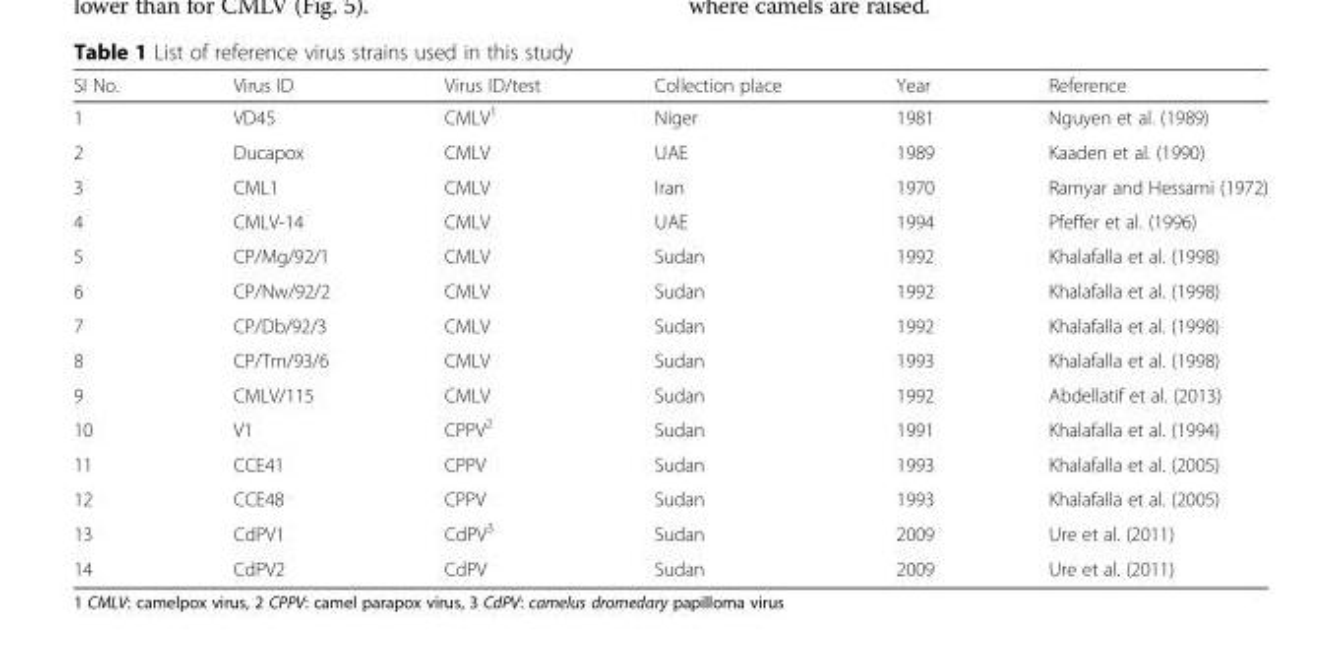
<table><thead><tr><td>SI No.</td><td>Virus ID</td><td>Virus ID/test</td><td>Collection place</td><td>Year</td><td>Reference</td></tr></thead><tbody><tr><td>1</td><td>VD45</td><td>CMLV<sup>1</sup></td><td>Niger</td><td>1981</td><td>Nguyen et al. (1989)</td></tr><tr><td>2</td><td>Ducapox</td><td>CMLV</td><td>UAE</td><td>1989</td><td>Kaaden et al. (1990)</td></tr><tr><td>3</td><td>CML1</td><td>CMLV</td><td>Iran</td><td>1970</td><td>Ramyar and Hessami (1972)</td></tr><tr><td>4</td><td>CMLV-14</td><td>CMLV</td><td>UAE</td><td>1994</td><td>Pfeffer et al. (1996)</td></tr><tr><td>5</td><td>CP/Mg/92/1</td><td>CMLV</td><td>Sudan</td><td>1992</td><td>Khalafalla et al. (1998)</td></tr><tr><td>6</td><td>CP/Nw/92/2</td><td>CMLV</td><td>Sudan</td><td>1992</td><td>Khalafalla et al. (1998)</td></tr><tr><td>7</td><td>CP/Db/92/3</td><td>CMLV</td><td>Sudan</td><td>1992</td><td>Khalafalla et al. (1998)</td></tr><tr><td>8</td><td>CP/Tm/93/6</td><td>CMLV</td><td>Sudan</td><td>1993</td><td>Khalafalla et al. (1998)</td></tr><tr><td>9</td><td>CMLV/115</td><td>CMLV</td><td>Sudan</td><td>1992</td><td>Abdellatif et al. (2013)</td></tr><tr><td>10</td><td>V1</td><td>CPPV<sup>2</sup></td><td>Sudan</td><td>1991</td><td>Khalafalla et al. (1994)</td></tr><tr><td>11</td><td>CCE41</td><td>CPPV</td><td>Sudan</td><td>1993</td><td>Khalafalla et al. (2005)</td></tr><tr><td>12</td><td>CCE48</td><td>CPPV</td><td>Sudan</td><td>1993</td><td>Khalafalla et al. (2005)</td></tr><tr><td>13</td><td>CdPV1</td><td>CdPV<sup>3</sup></td><td>Sudan</td><td>2009</td><td>Ure et al. (2011)</td></tr><tr><td>14</td><td>CdPV2</td><td>CdPV</td><td>Sudan</td><td>2009</td><td>Ure et al. (2011)</td></tr></tbody></table>